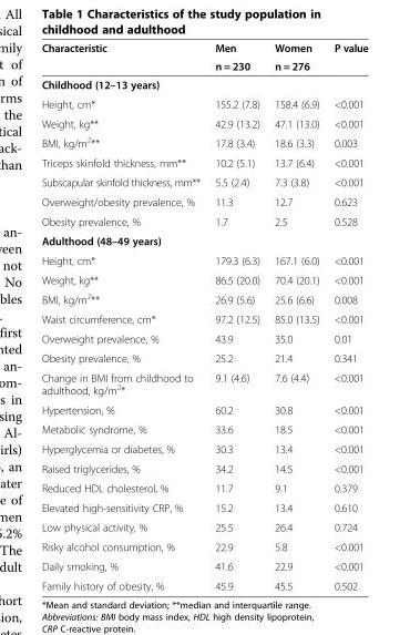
<table><thead><tr><td rowspan="2">Characteristic</td><td rowspan="2">Men n = 230</td><td rowspan="2">Women n = 276</td><td rowspan="2">P value</td></tr><tr></tr></thead><tbody><tr><td colspan="4">Childhood (12–13 years)</td></tr><tr><td>Height, cm*</td><td>155.2 (7.8)</td><td>158.4 (6.9)</td><td>&lt;0.001</td></tr><tr><td>Weight, kg**</td><td>42.9 (13.2)</td><td>47.1 (13.0)</td><td>&lt;0.001</td></tr><tr><td>BMI, kg/m<sup>2</sup>**</td><td>17.8 (3.4)</td><td>18.6 (3.3)</td><td>0.003</td></tr><tr><td>Triceps skinfold thickness, mm**</td><td>10.2 (5.1)</td><td>13.7 (6.4)</td><td>&lt;0.001</td></tr><tr><td>Subscapular skinfold thickness, mm**</td><td>5.5 (2.4)</td><td>7.3 (3.8)</td><td>&lt;0.001</td></tr><tr><td>Overweight/obesity prevalence, %</td><td>11.3</td><td>12.7</td><td>0.623</td></tr><tr><td>Obesity prevalence, %</td><td>1.7</td><td>2.5</td><td>0.528</td></tr><tr><td colspan="4">Adulthood (48–49 years)</td></tr><tr><td>Height, cm*</td><td>179.3 (6.3)</td><td>167.1 (6.0)</td><td>&lt;0.001</td></tr><tr><td>Weight, kg**</td><td>86.5 (20.0)</td><td>70.4 (20.1)</td><td>&lt;0.001</td></tr><tr><td>BMI, kg/m<sup>2</sup>**</td><td>26.9 (5.6)</td><td>25.6 (6.6)</td><td>0.008</td></tr><tr><td>Waist circumference, cm*</td><td>97.2 (12.5)</td><td>85.0 (13.5)</td><td>&lt;0.001</td></tr><tr><td>Overweight prevalence, %</td><td>43.9</td><td>35.0</td><td>0.01</td></tr><tr><td>Obesity prevalence, %</td><td>25.2</td><td>21.4</td><td>0.341</td></tr><tr><td>Change in BMI from childhood to adulthood, kg/m<sup>2</sup>*</td><td>9.1 (4.6)</td><td>7.6 (4.4)</td><td>&lt;0.001</td></tr><tr><td>Hypertension, %</td><td>60.2</td><td>30.8</td><td>&lt;0.001</td></tr><tr><td>Metabolic syndrome, %</td><td>33.6</td><td>18.5</td><td>&lt;0.001</td></tr><tr><td>Hyperglycemia or diabetes, %</td><td>30.3</td><td>13.4</td><td>&lt;0.001</td></tr><tr><td>Raised triglycerides, %</td><td>34.2</td><td>14.5</td><td>&lt;0.001</td></tr><tr><td>Reduced HDL cholesterol, %</td><td>11.7</td><td>9.1</td><td>0.379</td></tr><tr><td>Elevated high-sensitivity CRP, %</td><td>15.2</td><td>13.4</td><td>0.610</td></tr><tr><td>Low physical activity, %</td><td>25.5</td><td>26.4</td><td>0.724</td></tr><tr><td>Risky alcohol consumption, %</td><td>22.9</td><td>5.8</td><td>&lt;0.001</td></tr><tr><td>Daily smoking, %</td><td>41.6</td><td>22.9</td><td>&lt;0.001</td></tr><tr><td>Family history of obesity, %</td><td>45.9</td><td>45.5</td><td>0.502</td></tr></tbody></table>